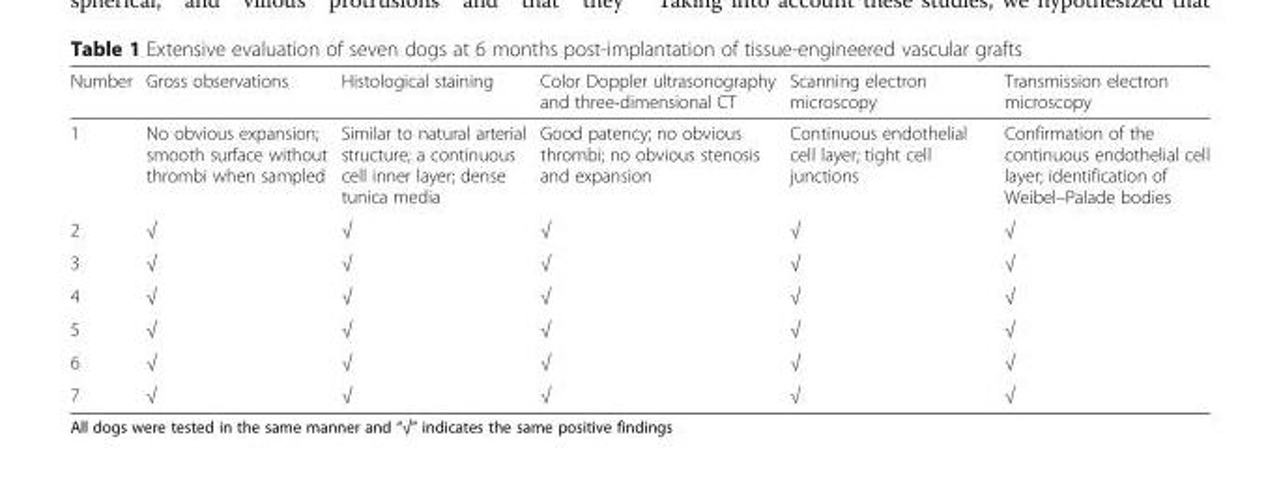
<table><thead><tr><td>Number</td><td>Gross observations</td><td>Histological staining</td><td>Color Doppler ultrasonography and three-dimensional CT</td><td>Scanning electron microscopy</td><td>Transmission electron microscopy</td></tr></thead><tbody><tr><td>1</td><td>No obvious expansion; smooth surface without thrombi when sampled</td><td>Similar to natural arterial structure; a continuous cell inner layer; dense tunica media</td><td>Good patency; no obvious thrombi; no obvious stenosis and expansion</td><td>Continuous endothelial cell layer; tight cell junctions</td><td>Confirmation of the continuous endothelial cell layer; identification of Weibel–Palade bodies</td></tr><tr><td>2</td><td>√</td><td>√</td><td>√</td><td>√</td><td>√</td></tr><tr><td>3</td><td>√</td><td>√</td><td>√</td><td>√</td><td>√</td></tr><tr><td>4</td><td>√</td><td>√</td><td>√</td><td>√</td><td>√</td></tr><tr><td>5</td><td>√</td><td>√</td><td>√</td><td>√</td><td>√</td></tr><tr><td>6</td><td>√</td><td>√</td><td>√</td><td>√</td><td>√</td></tr><tr><td>7</td><td>√</td><td>√</td><td>√</td><td>√</td><td>√</td></tr></tbody></table>